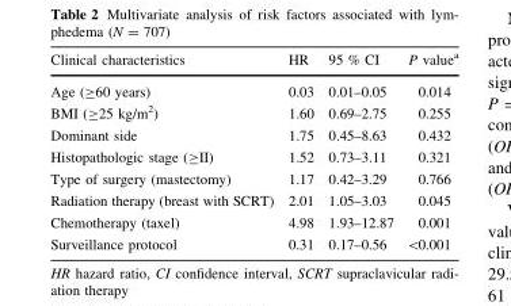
<table><thead><tr><td>Clinical characteristics</td><td>HR</td><td>95 % CI</td><td>P value<sup>a</sup></td></tr></thead><tbody><tr><td>Age (≥60 years)</td><td>0.03</td><td>0.01–0.05</td><td>0.014</td></tr><tr><td>BMI (≥25 kg/m<sup>2</sup>)</td><td>1.60</td><td>0.69–2.75</td><td>0.255</td></tr><tr><td>Dominant side</td><td>1.75</td><td>0.45–8.63</td><td>0.432</td></tr><tr><td>Histopathologic stage (≥II)</td><td>1.52</td><td>0.73–3.11</td><td>0.321</td></tr><tr><td>Type of surgery (mastectomy)</td><td>1.17</td><td>0.42–3.29</td><td>0.766</td></tr><tr><td>Radiation therapy (breast with SCRT)</td><td>2.01</td><td>1.05–3.03</td><td>0.045</td></tr><tr><td>Chemotherapy (taxel)</td><td>4.98</td><td>1.93–12.87</td><td>0.001</td></tr><tr><td>Surveillance protocol</td><td>0.31</td><td>0.17–0.56</td><td>&lt;0.001</td></tr></tbody></table>